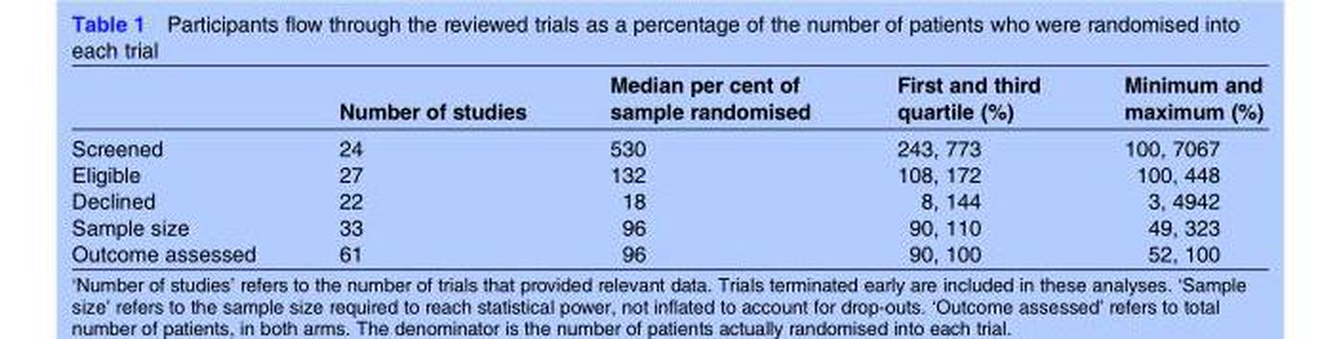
<table><thead><tr><td></td><td>Number of studies</td><td>Median per cent of sample randomised</td><td>First and third quartile (%)</td><td>Minimum and maximum (%)</td></tr></thead><tbody><tr><td>Screened</td><td>24</td><td>530</td><td>243, 773</td><td>100, 7067</td></tr><tr><td>Eligible</td><td>27</td><td>132</td><td>108, 172</td><td>100, 448</td></tr><tr><td>Declined</td><td>22</td><td>18</td><td>8, 144</td><td>3, 4942</td></tr><tr><td>Sample size</td><td>33</td><td>96</td><td>90, 110</td><td>49, 323</td></tr><tr><td>Outcome assessed</td><td>61</td><td>96</td><td>90, 100</td><td>52, 100</td></tr></tbody></table>